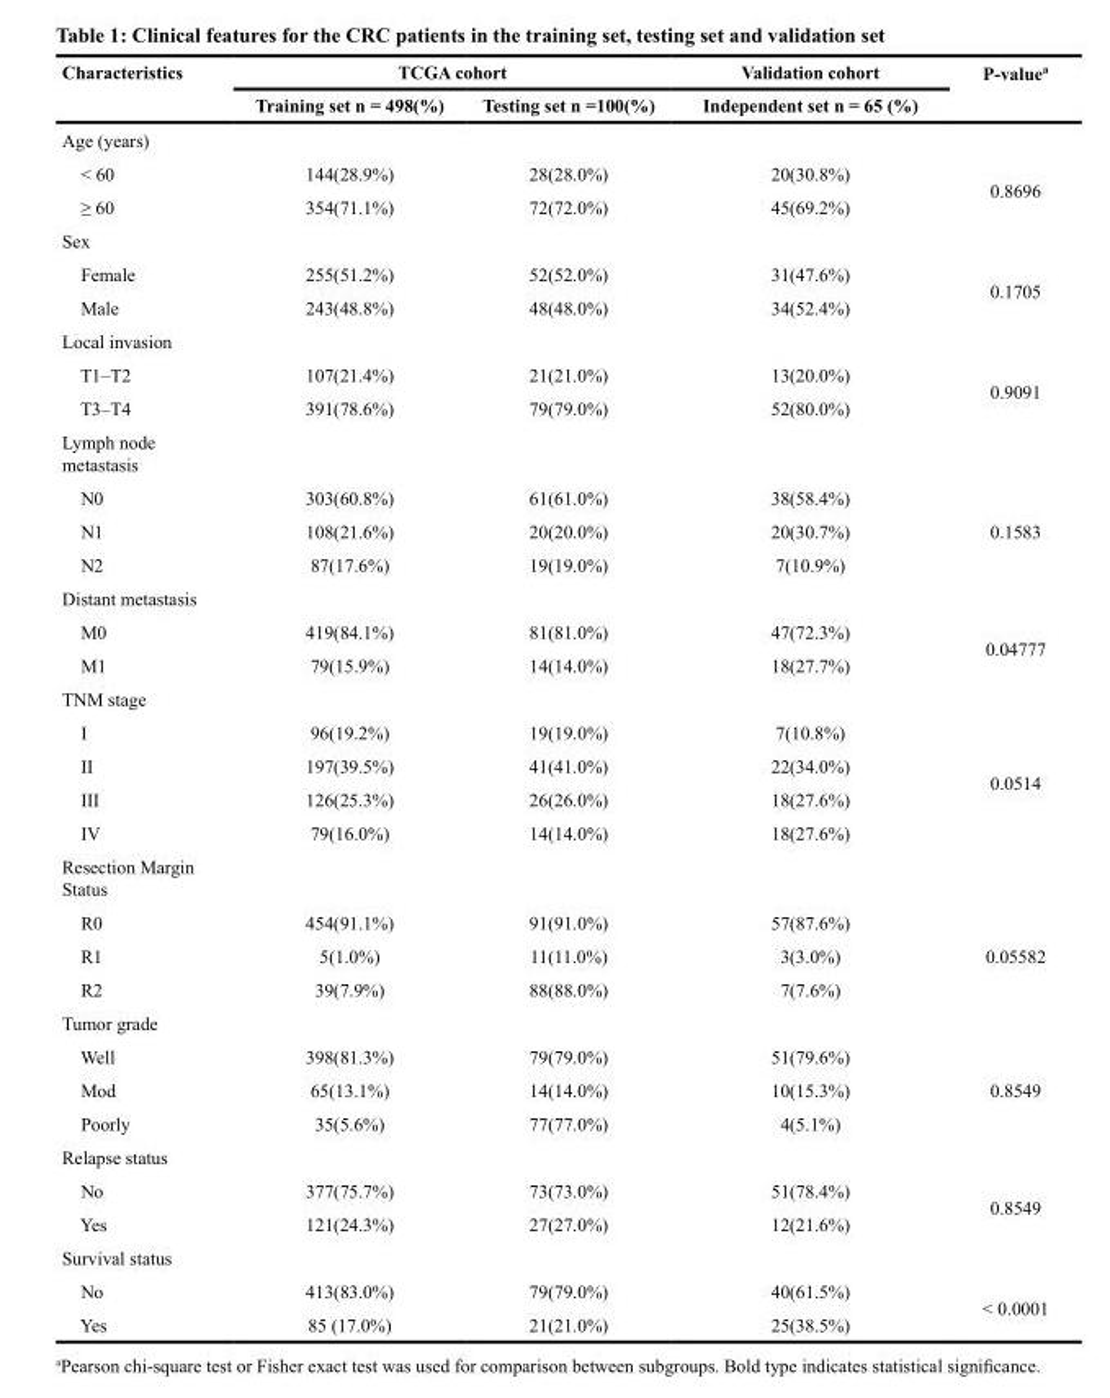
<table><thead><tr><td rowspan="2">Characteristics</td><td colspan="2">TCGA cohort</td><td rowspan="2">Validation cohort Independent set n = 65 (%)</td><td rowspan="2">P-value<sup>a</sup></td></tr><tr><td>Training set n = 498(%)</td><td>Testing set n =100(%)</td></tr></thead><tbody><tr><td colspan="5">Age (years)</td></tr><tr><td>&lt; 60</td><td>144(28.9%)</td><td>28(28.0%)</td><td>20(30.8%)</td><td rowspan="2">0.8696</td></tr><tr><td>≥ 60</td><td>354(71.1%)</td><td>72(72.0%)</td><td>45(69.2%)</td></tr><tr><td colspan="5">Sex</td></tr><tr><td>Female</td><td>255(51.2%)</td><td>52(52.0%)</td><td>31(47.6%)</td><td rowspan="2">0.1705</td></tr><tr><td>Male</td><td>243(48.8%)</td><td>48(48.0%)</td><td>34(52.4%)</td></tr><tr><td colspan="5">Local invasion</td></tr><tr><td>T1–T2</td><td>107(21.4%)</td><td>21(21.0%)</td><td>13(20.0%)</td><td rowspan="2">0.9091</td></tr><tr><td>T3–T4</td><td>391(78.6%)</td><td>79(79.0%)</td><td>52(80.0%)</td></tr><tr><td colspan="5">Lymph node metastasis</td></tr><tr><td>N0</td><td>303(60.8%)</td><td>61(61.0%)</td><td>38(58.4%)</td><td rowspan="3">0.1583</td></tr><tr><td>N1</td><td>108(21.6%)</td><td>20(20.0%)</td><td>20(30.7%)</td></tr><tr><td>N2</td><td>87(17.6%)</td><td>19(19.0%)</td><td>7(10.9%)</td></tr><tr><td colspan="5">Distant metastasis</td></tr><tr><td>M0</td><td>419(84.1%)</td><td>81(81.0%)</td><td>47(72.3%)</td><td rowspan="2">0.04777</td></tr><tr><td>M1</td><td>79(15.9%)</td><td>14(14.0%)</td><td>18(27.7%)</td></tr><tr><td colspan="5">TNM stage</td></tr><tr><td>I</td><td>96(19.2%)</td><td>19(19.0%)</td><td>7(10.8%)</td><td rowspan="4">0.0514</td></tr><tr><td>II</td><td>197(39.5%)</td><td>41(41.0%)</td><td>22(34.0%)</td></tr><tr><td>III</td><td>126(25.3%)</td><td>26(26.0%)</td><td>18(27.6%)</td></tr><tr><td>IV</td><td>79(16.0%)</td><td>14(14.0%)</td><td>18(27.6%)</td></tr><tr><td colspan="5">Resection Margin Status</td></tr><tr><td>R0</td><td>454(91.1%)</td><td>91(91.0%)</td><td>57(87.6%)</td><td rowspan="3">0.05582</td></tr><tr><td>R1</td><td>5(1.0%)</td><td>11(11.0%)</td><td>3(3.0%)</td></tr><tr><td>R2</td><td>39(7.9%)</td><td>88(88.0%)</td><td>7(7.6%)</td></tr><tr><td colspan="5">Tumor grade</td></tr><tr><td>Well</td><td>398(81.3%)</td><td>79(79.0%)</td><td>51(79.6%)</td><td rowspan="3">0.8549</td></tr><tr><td>Mod</td><td>65(13.1%)</td><td>14(14.0%)</td><td>10(15.3%)</td></tr><tr><td>Poorly</td><td>35(5.6%)</td><td>77(77.0%)</td><td>4(5.1%)</td></tr><tr><td colspan="5">Relapse status</td></tr><tr><td>No</td><td>377(75.7%)</td><td>73(73.0%)</td><td>51(78.4%)</td><td rowspan="2">0.8549</td></tr><tr><td>Yes</td><td>121(24.3%)</td><td>27(27.0%)</td><td>12(21.6%)</td></tr><tr><td colspan="5">Survival status</td></tr><tr><td>No</td><td>413(83.0%)</td><td>79(79.0%)</td><td>40(61.5%)</td><td rowspan="2">&lt; 0.0001</td></tr><tr><td>Yes</td><td>85 (17.0%)</td><td>21(21.0%)</td><td>25(38.5%)</td></tr></tbody></table>